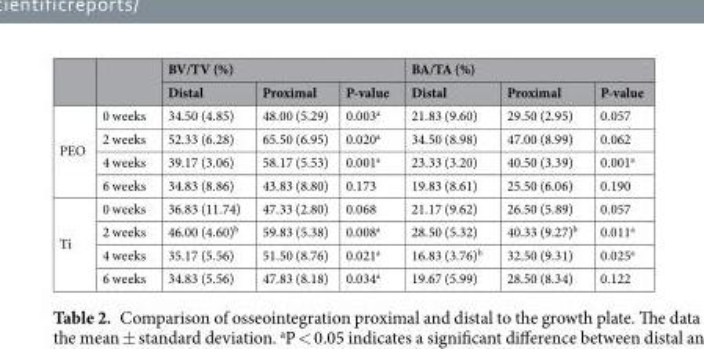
<table><thead><tr><td rowspan="2"></td><td rowspan="2"></td><td colspan="3">BV/TV (%)</td><td colspan="3">BA/TA (%)</td></tr><tr><td>Distal</td><td>Proximal</td><td>P-value</td><td>Distal</td><td>Proximal</td><td>P-value</td></tr></thead><tbody><tr><td rowspan="4">PEO</td><td>0 weeks</td><td>34.50 (4.85)</td><td>48.00 (5.29)</td><td>0.003<sup>a</sup></td><td>21.83 (9.60)</td><td>29.50 (2.95)</td><td>0.057</td></tr><tr><td>2 weeks</td><td>52.33 (6.28)</td><td>65.50 (6.95)</td><td>0.020<sup>a</sup></td><td>34.50 (8.98)</td><td>47.00 (8.99)</td><td>0.062</td></tr><tr><td>4 weeks</td><td>39.17 (3.06)</td><td>58.17 (5.53)</td><td>0.001<sup>a</sup></td><td>23.33 (3.20)</td><td>40.50 (3.39)</td><td>0.001<sup>a</sup></td></tr><tr><td>6 weeks</td><td>34.83 (8.86)</td><td>43.83 (8.80)</td><td>0.173</td><td>19.83 (8.61)</td><td>25.50 (6.06)</td><td>0.190</td></tr><tr><td rowspan="4">Ti</td><td>0 weeks</td><td>36.83 (11.74)</td><td>47.33 (2.80)</td><td>0.068</td><td>21.17 (9.62)</td><td>26.50 (5.89)</td><td>0.057</td></tr><tr><td>2 weeks</td><td>46.00 (4.60)<sup>b</sup></td><td>59.83 (5.38)</td><td>0.008<sup>a</sup></td><td>28.50 (5.32)</td><td>40.33 (9.27)<sup>b</sup></td><td>0.011<sup>a</sup></td></tr><tr><td>4 weeks</td><td>35.17 (5.56)</td><td>51.50 (8.76)</td><td>0.021<sup>a</sup></td><td>16.83 (3.76)<sup>b</sup></td><td>32.50 (9.31)</td><td>0.025<sup>a</sup></td></tr><tr><td>6 weeks</td><td>34.83 (5.56)</td><td>47.83 (8.18)</td><td>0.034<sup>a</sup></td><td>19.67 (5.99)</td><td>28.50 (8.34)</td><td>0.122</td></tr></tbody></table>